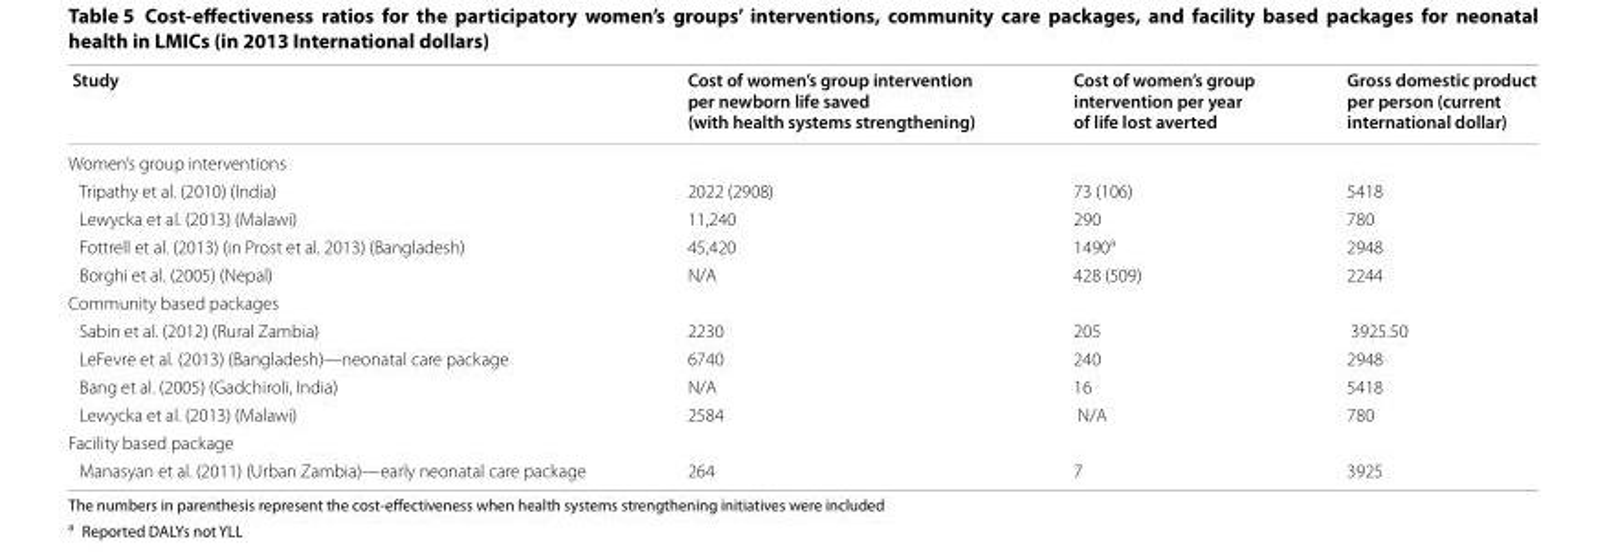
<table><thead><tr><td>Study</td><td>Cost of women’s group intervention per newborn life saved (with health systems strengthening)</td><td>Cost of women’s group intervention per year of life lost averted</td><td>Gross domestic product per person (current international dollar)</td></tr></thead><tbody><tr><td colspan="4">Women’s group interventions</td></tr><tr><td>Tripathy et al. (2010) (India)</td><td>2022 (2908)</td><td>73 (106)</td><td>5418</td></tr><tr><td>Lewycka et al. (2013) (Malawi)</td><td>11,240</td><td>290</td><td>780</td></tr><tr><td>Fottrell et al. (2013) (in Prost et al. 2013) (Bangladesh)</td><td>45,420</td><td>1490<sup>a</sup></td><td>2948</td></tr><tr><td>Borghi et al. (2005) (Nepal)</td><td>N/A</td><td>428 (509)</td><td>2244</td></tr><tr><td colspan="4">Community based packages</td></tr><tr><td>Sabin et al. (2012) (Rural Zambia)</td><td>2230</td><td>205</td><td>3925.50</td></tr><tr><td>LeFevre et al. (2013) (Bangladesh)—neonatal care package</td><td>6740</td><td>240</td><td>2948</td></tr><tr><td>Bang et al. (2005) (Gadchiroli, India)</td><td>N/A</td><td>16</td><td>5418</td></tr><tr><td>Lewycka et al. (2013) (Malawi)</td><td>2584</td><td>N/A</td><td>780</td></tr><tr><td colspan="4">Facility based package</td></tr><tr><td>Manasyan et al. (2011) (Urban Zambia)—early neonatal care package</td><td>264</td><td>7</td><td>3925</td></tr></tbody></table>